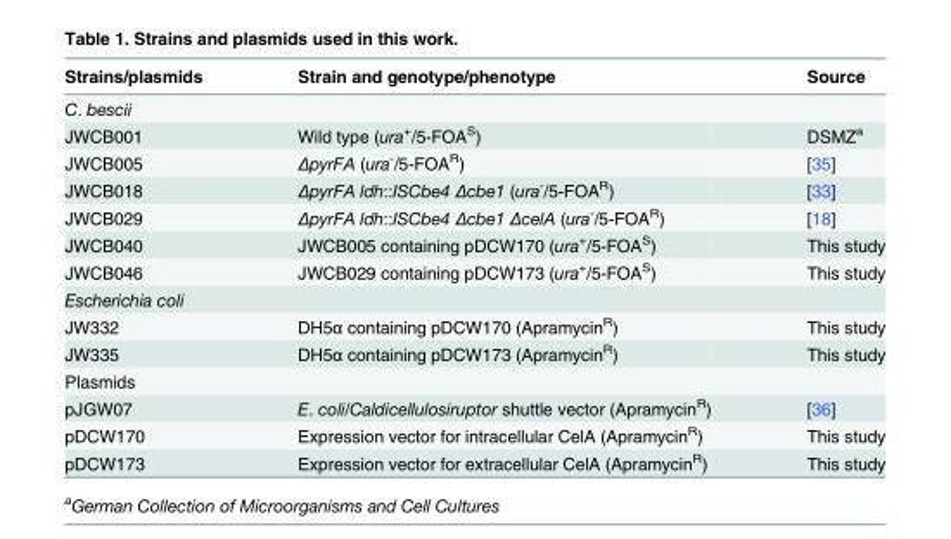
<table><thead><tr><td>Strains/plasmids</td><td>Strain and genotype/phenotype</td><td>Source</td></tr></thead><tbody><tr><td colspan="3">C. bescii</td></tr><tr><td>JWCB001</td><td>Wild type (ura<sup>+</sup>/5-FOA<sup>S</sup>)</td><td>DSMZ<sup>a</sup></td></tr><tr><td>JWCB005</td><td>ΔpyrFA (ura<sup>-</sup>/5-FOA<sup>R</sup>)</td><td>[35]</td></tr><tr><td>JWCB018</td><td>ΔpyrFA ldh::ISCbe4 Δcbe1 (ura<sup>-</sup>/5-FOA<sup>R</sup>)</td><td>[33]</td></tr><tr><td>JWCB029</td><td>ΔpyrFA ldh::ISCbe4 Δcbe1 ΔcelA (ura<sup>-</sup>/5-FOA<sup>R</sup>)</td><td>[18]</td></tr><tr><td>JWCB040</td><td>JWCB005 containing pDCW170 (ura<sup>+</sup>/5-FOA<sup>S</sup>)</td><td>This study</td></tr><tr><td>JWCB046</td><td>JWCB029 containing pDCW173 (ura<sup>+</sup>/5-FOA<sup>S</sup>)</td><td>This study</td></tr><tr><td colspan="3">Escherichia coli</td></tr><tr><td>JW332</td><td>DH5α containing pDCW170 (Apramycin<sup>R</sup>)</td><td>This study</td></tr><tr><td>JW335</td><td>DH5α containing pDCW173 (Apramycin<sup>R</sup>)</td><td>This study</td></tr><tr><td colspan="3">Plasmids</td></tr><tr><td>pJGW07</td><td>E. coli/Caldicellulosiruptor shuttle vector (Apramycin<sup>R</sup>)</td><td>[36]</td></tr><tr><td>pDCW170</td><td>Expression vector for intracellular CelA (Apramycin<sup>R</sup>)</td><td>This study</td></tr><tr><td>pDCW173</td><td>Expression vector for extracellular CelA (Apramycin<sup>R</sup>)</td><td>This study</td></tr></tbody></table>